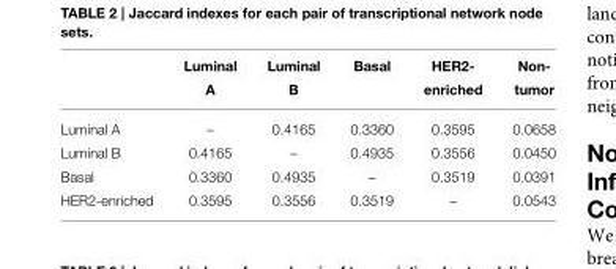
<table><thead><tr><td></td><td>Luminal A</td><td>Luminal B</td><td>Basal</td><td>HER2- enriched</td><td>Non- tumor</td></tr></thead><tbody><tr><td>Luminal A</td><td>–</td><td>0.4165</td><td>0.3360</td><td>0.3595</td><td>0.0658</td></tr><tr><td>Luminal B</td><td>0.4165</td><td>–</td><td>0.4935</td><td>0.3556</td><td>0.0450</td></tr><tr><td>Basal</td><td>0.3360</td><td>0.4935</td><td>–</td><td>0.3519</td><td>0.0391</td></tr><tr><td>HER2-enriched</td><td>0.3595</td><td>0.3556</td><td>0.3519</td><td>–</td><td>0.0543</td></tr></tbody></table>